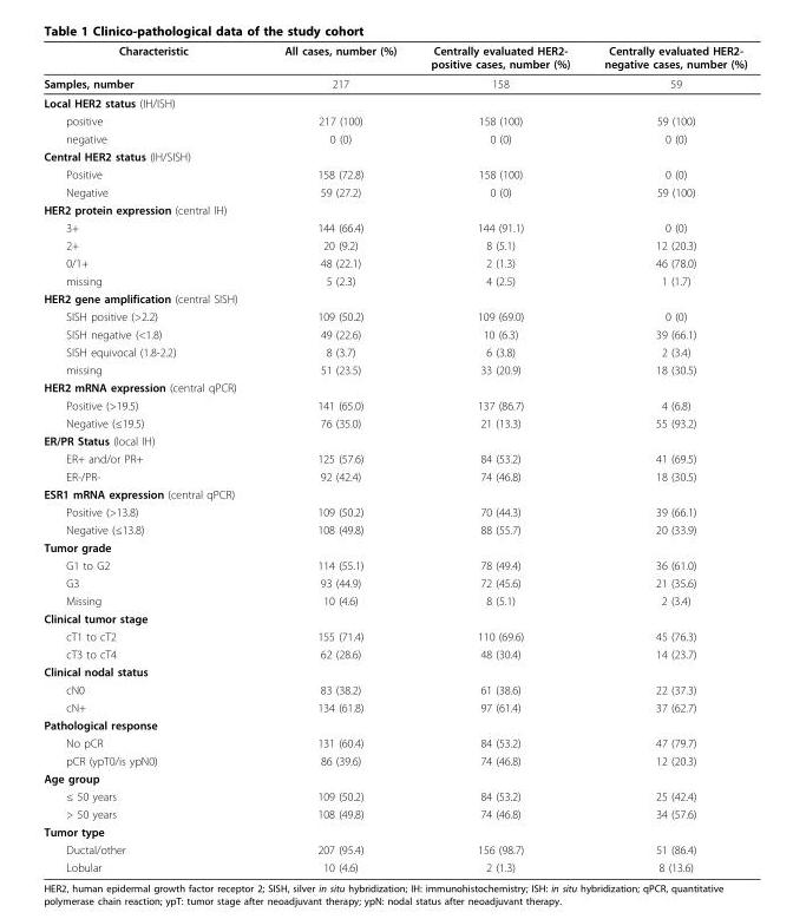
<table><thead><tr><td>Characteristic</td><td>All cases, number (%)</td><td>Centrally evaluated HER2- positive cases, number (%)</td><td>Centrally evaluated HER2- negative cases, number (%)</td></tr></thead><tbody><tr><td>Samples, number</td><td>217</td><td>158</td><td>59</td></tr><tr><td colspan="4">Local HER2 status (IH/ISH)</td></tr><tr><td>positive</td><td>217 (100)</td><td>158 (100)</td><td>59 (100)</td></tr><tr><td>negative</td><td>0 (0)</td><td>0 (0)</td><td>0 (0)</td></tr><tr><td colspan="4">Central HER2 status (IH/SISH)</td></tr><tr><td>Positive</td><td>158 (72.8)</td><td>158 (100)</td><td>0 (0)</td></tr><tr><td>Negative</td><td>59 (27.2)</td><td>0 (0)</td><td>59 (100)</td></tr><tr><td colspan="4">HER2 protein expression (central IH)</td></tr><tr><td>3+</td><td>144 (66.4)</td><td>144 (91.1)</td><td>0 (0)</td></tr><tr><td>2+</td><td>20 (9.2)</td><td>8 (5.1)</td><td>12 (20.3)</td></tr><tr><td>0/1+</td><td>48 (22.1)</td><td>2 (1.3)</td><td>46 (78.0)</td></tr><tr><td>missing</td><td>5 (2.3)</td><td>4 (2.5)</td><td>1 (1.7)</td></tr><tr><td colspan="4">HER2 gene amplification (central SISH)</td></tr><tr><td>SISH positive (&gt;2.2)</td><td>109 (50.2)</td><td>109 (69.0)</td><td>0 (0)</td></tr><tr><td>SISH negative (&lt;1.8)</td><td>49 (22.6)</td><td>10 (6.3)</td><td>39 (66.1)</td></tr><tr><td>SISH equivocal (1.8-2.2)</td><td>8 (3.7)</td><td>6 (3.8)</td><td>2 (3.4)</td></tr><tr><td>missing</td><td>51 (23.5)</td><td>33 (20.9)</td><td>18 (30.5)</td></tr><tr><td colspan="4">HER2 mRNA expression (central qPCR)</td></tr><tr><td>Positive (&gt;19.5)</td><td>141 (65.0)</td><td>137 (86.7)</td><td>4 (6.8)</td></tr><tr><td>Negative (≤19.5)</td><td>76 (35.0)</td><td>21 (13.3)</td><td>55 (93.2)</td></tr><tr><td colspan="4">ER/PR Status (local IH)</td></tr><tr><td>ER+ and/or PR+</td><td>125 (57.6)</td><td>84 (53.2)</td><td>41 (69.5)</td></tr><tr><td>ER-/PR-</td><td>92 (42.4)</td><td>74 (46.8)</td><td>18 (30.5)</td></tr><tr><td colspan="4">ESR1 mRNA expression (central qPCR)</td></tr><tr><td>Positive (&gt;13.8)</td><td>109 (50.2)</td><td>70 (44.3)</td><td>39 (66.1)</td></tr><tr><td>Negative (≤13.8)</td><td>108 (49.8)</td><td>88 (55.7)</td><td>20 (33.9)</td></tr><tr><td colspan="4">Tumor grade</td></tr><tr><td>G1 to G2</td><td>114 (55.1)</td><td>78 (49.4)</td><td>36 (61.0)</td></tr><tr><td>G3</td><td>93 (44.9)</td><td>72 (45.6)</td><td>21 (35.6)</td></tr><tr><td>Missing</td><td>10 (4.6)</td><td>8 (5.1)</td><td>2 (3.4)</td></tr><tr><td colspan="4">Clinical tumor stage</td></tr><tr><td>cT1 to cT2</td><td>155 (71.4)</td><td>110 (69.6)</td><td>45 (76.3)</td></tr><tr><td>cT3 to cT4</td><td>62 (28.6)</td><td>48 (30.4)</td><td>14 (23.7)</td></tr><tr><td colspan="4">Clinical nodal status</td></tr><tr><td>cN0</td><td>83 (38.2)</td><td>61 (38.6)</td><td>22 (37.3)</td></tr><tr><td>cN+</td><td>134 (61.8)</td><td>97 (61.4)</td><td>37 (62.7)</td></tr><tr><td colspan="4">Pathological response</td></tr><tr><td>No pCR</td><td>131 (60.4)</td><td>84 (53.2)</td><td>47 (79.7)</td></tr><tr><td>pCR (ypT0/is ypN0)</td><td>86 (39.6)</td><td>74 (46.8)</td><td>12 (20.3)</td></tr><tr><td colspan="4">Age group</td></tr><tr><td>≤ 50 years</td><td>109 (50.2)</td><td>84 (53.2)</td><td>25 (42.4)</td></tr><tr><td>&gt; 50 years</td><td>108 (49.8)</td><td>74 (46.8)</td><td>34 (57.6)</td></tr><tr><td colspan="4">Tumor type</td></tr><tr><td>Ductal/other</td><td>207 (95.4)</td><td>156 (98.7)</td><td>51 (86.4)</td></tr><tr><td>Lobular</td><td>10 (4.6)</td><td>2 (1.3)</td><td>8 (13.6)</td></tr></tbody></table>